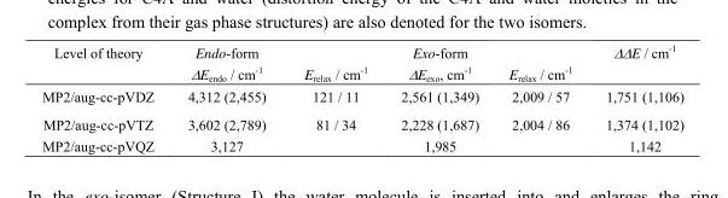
<table><thead><tr><td>Level of theory</td><td>Endo-form ΔE<sub>endo</sub> / cm<sup>-1</sup></td><td>E<sub>relax</sub> / cm<sup>-1</sup></td><td>Exo-form ΔE<sub>exo</sub>, cm<sup>-1</sup></td><td>E<sub>relax</sub> / cm<sup>-1</sup></td><td>ΔΔE / cm<sup>-1</sup></td></tr></thead><tbody><tr><td>MP2/aug-cc-pVDZ</td><td>4,312 (2,455)</td><td>121 / 11</td><td>2,561 (1,349)</td><td>2,009 / 57</td><td>1,751 (1,106)</td></tr><tr><td>MP2/aug-cc-pVTZ</td><td>3,602 (2,789)</td><td>81 / 34</td><td>2,228 (1,687)</td><td>2,004 / 86</td><td>1,374 (1,102)</td></tr><tr><td>MP2/aug-cc-pVQZ</td><td>3,127</td><td></td><td>1,985</td><td></td><td>1,142</td></tr></tbody></table>